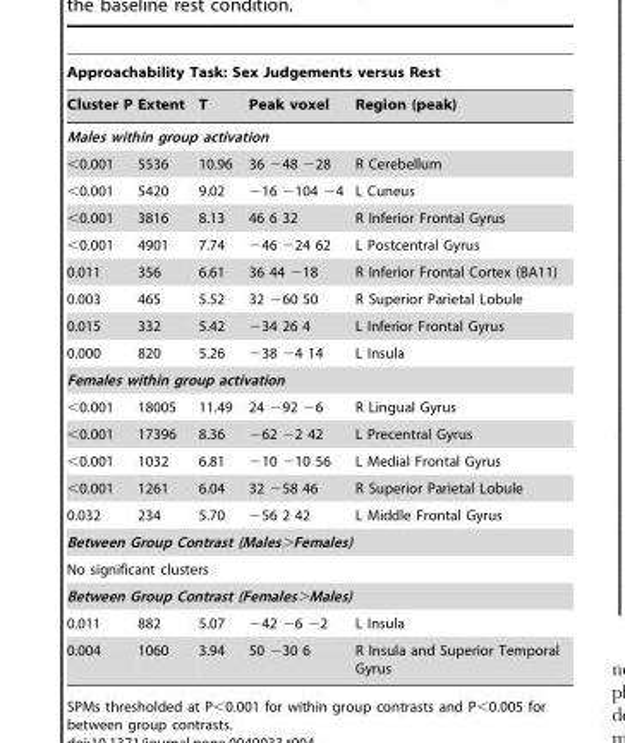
<table><thead><tr><td colspan="5">Approachability Task: Sex Judgements versus Rest</td></tr><tr><td>Cluster P</td><td>Extent</td><td>T</td><td>Peak voxel</td><td>Region (peak)</td></tr></thead><tbody><tr><td colspan="5">Males within group activation</td></tr><tr><td>&lt;0.001</td><td>5536</td><td>10.96</td><td>36 −48 −28</td><td>R Cerebellum</td></tr><tr><td>&lt;0.001</td><td>5420</td><td>9.02</td><td>−16 −104 −4</td><td>L Cuneus</td></tr><tr><td>&lt;0.001</td><td>3816</td><td>8.13</td><td>46 6 32</td><td>R Inferior Frontal Gyrus</td></tr><tr><td>&lt;0.001</td><td>4901</td><td>7.74</td><td>−46 −24 62</td><td>L Postcentral Gyrus</td></tr><tr><td>0.011</td><td>356</td><td>6.61</td><td>36 44 −18</td><td>R Inferior Frontal Cortex (BA11)</td></tr><tr><td>0.003</td><td>465</td><td>5.52</td><td>32 −60 50</td><td>R Superior Parietal Lobule</td></tr><tr><td>0.015</td><td>332</td><td>5.42</td><td>−34 26 4</td><td>L Inferior Frontal Gyrus</td></tr><tr><td>0.000</td><td>820</td><td>5.26</td><td>−38 −4 14</td><td>L Insula</td></tr><tr><td colspan="5">Females within group activation</td></tr><tr><td>&lt;0.001</td><td>18005</td><td>11.49</td><td>24 −92 −6</td><td>R Lingual Gyrus</td></tr><tr><td>&lt;0.001</td><td>17396</td><td>8.36</td><td>−62 −2 42</td><td>L Precentral Gyrus</td></tr><tr><td>&lt;0.001</td><td>1032</td><td>6.81</td><td>−10 −10 56</td><td>L Medial Frontal Gyrus</td></tr><tr><td>&lt;0.001</td><td>1261</td><td>6.04</td><td>32 −58 46</td><td>R Superior Parietal Lobule</td></tr><tr><td>0.032</td><td>234</td><td>5.70</td><td>−56 2 42</td><td>L Middle Frontal Gyrus</td></tr><tr><td colspan="5">Between Group Contrast (Males&gt;Females)</td></tr><tr><td colspan="5">No significant clusters</td></tr><tr><td colspan="5">Between Group Contrast (Females&gt;Males)</td></tr><tr><td>0.011</td><td>882</td><td>5.07</td><td>−42 −6 −2</td><td>L Insula</td></tr><tr><td>0.004</td><td>1060</td><td>3.94</td><td>50 −30 6</td><td>R Insula and Superior Temporal Gyrus</td></tr></tbody></table>